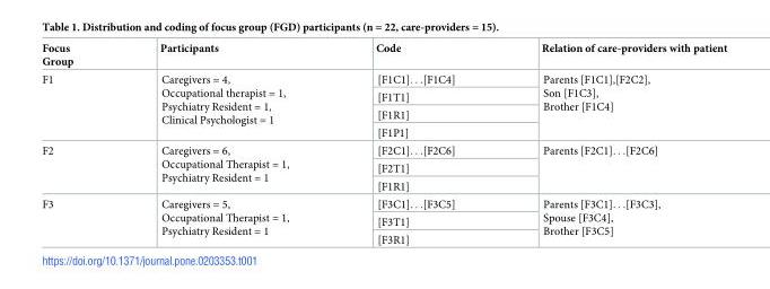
<table><thead><tr><td>Focus Group</td><td>Participants</td><td>Code</td><td>Relation of care-providers with patient</td></tr></thead><tbody><tr><td rowspan="4">F1</td><td rowspan="4">Caregivers = 4, Occupational therapist = 1, Psychiatry Resident = 1, Clinical Psychologist = 1</td><td>[F1C1]. . .[F1C4]</td><td rowspan="4">Parents [F1C1],[F2C2], Son [F1C3], Brother [F1C4]</td></tr><tr><td>[F1T1]</td></tr><tr><td>[F1R1]</td></tr><tr><td>[F1P1]</td></tr><tr><td rowspan="3">F2</td><td rowspan="3">Caregivers = 6, Occupational Therapist = 1, Psychiatry Resident = 1</td><td>[F2C1]. . .[F2C6]</td><td rowspan="3">Parents [F2C1]. . .[F2C6]</td></tr><tr><td>[F2T1]</td></tr><tr><td>[F1R1]</td></tr><tr><td rowspan="3">F3</td><td rowspan="3">Caregivers = 5, Occupational Therapist = 1, Psychiatry Resident = 1</td><td>[F3C1]. . .[F3C5]</td><td rowspan="3">Parents [F3C1]. . .[F3C3], Spouse [F3C4], Brother [F3C5]</td></tr><tr><td>[F3T1]</td></tr><tr><td>[F3R1]</td></tr></tbody></table>